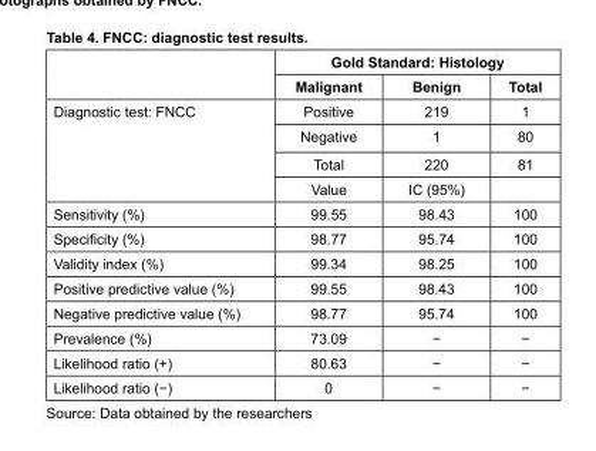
<table><thead><tr><td rowspan="2"></td><td colspan="3">Gold Standard: Histology</td></tr><tr><td>Malignant</td><td>Benign</td><td>Total</td></tr></thead><tbody><tr><td rowspan="4">Diagnostic test: FNCC</td><td>Positive</td><td>219</td><td>1</td></tr><tr><td>Negative</td><td>1</td><td>80</td></tr><tr><td>Total</td><td>220</td><td>81</td></tr><tr><td>Value</td><td>IC (95%)</td><td></td></tr><tr><td>Sensitivity (%)</td><td>99.55</td><td>98.43</td><td>100</td></tr><tr><td>Specificity (%)</td><td>98.77</td><td>95.74</td><td>100</td></tr><tr><td>Validity index (%)</td><td>99.34</td><td>98.25</td><td>100</td></tr><tr><td>Positive predictive value (%)</td><td>99.55</td><td>98.43</td><td>100</td></tr><tr><td>Negative predictive value (%)</td><td>98.77</td><td>95.74</td><td>100</td></tr><tr><td>Prevalence (%)</td><td>73.09</td><td>−</td><td>−</td></tr><tr><td>Likelihood ratio (+)</td><td>80.63</td><td>−</td><td>−</td></tr><tr><td>Likelihood ratio (−)</td><td>0</td><td>−</td><td>−</td></tr></tbody></table>